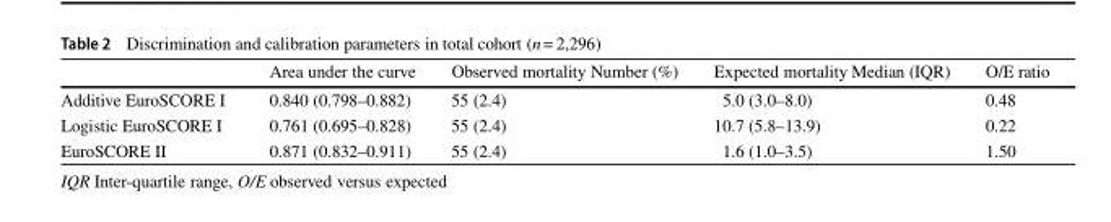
<table><thead><tr><td></td><td>Area under the curve</td><td>Observed mortality Number (%)</td><td>Expected mortality Median (IQR)</td><td>O/E ratio</td></tr></thead><tbody><tr><td>Additive EuroSCORE I</td><td>0.840 (0.798–0.882)</td><td>55 (2.4)</td><td>5.0 (3.0–8.0)</td><td>0.48</td></tr><tr><td>Logistic EuroSCORE I</td><td>0.761 (0.695–0.828)</td><td>55 (2.4)</td><td>10.7 (5.8–13.9)</td><td>0.22</td></tr><tr><td>EuroSCORE II</td><td>0.871 (0.832–0.911)</td><td>55 (2.4)</td><td>1.6 (1.0–3.5)</td><td>1.50</td></tr></tbody></table>